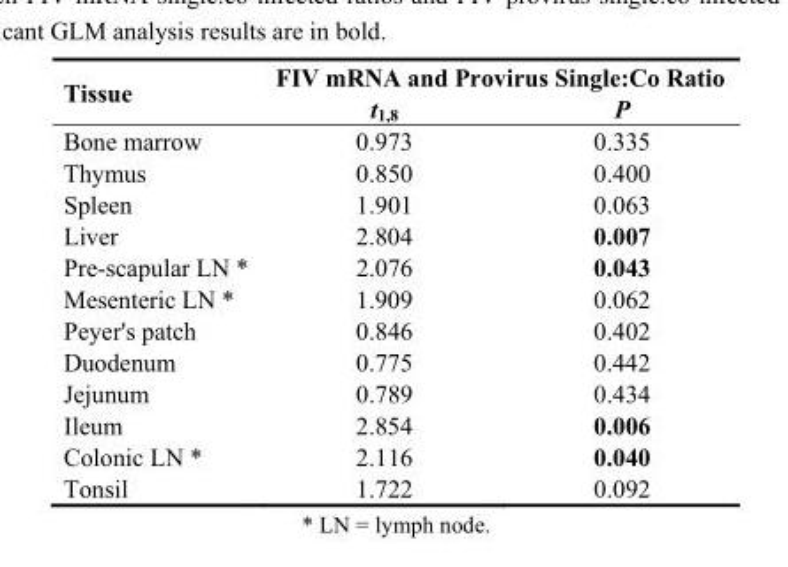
<table><thead><tr><td rowspan="2">Tissue</td><td colspan="2">FIV mRNA and Provirus Single:Co Ratio</td></tr><tr><td>t<sub>1,8</sub></td><td>P</td></tr></thead><tbody><tr><td>Bone marrow</td><td>0.973</td><td>0.335</td></tr><tr><td>Thymus</td><td>0.850</td><td>0.400</td></tr><tr><td>Spleen</td><td>1.901</td><td>0.063</td></tr><tr><td>Liver</td><td>2.804</td><td>0.007</td></tr><tr><td>Pre-scapular LN *</td><td>2.076</td><td>0.043</td></tr><tr><td>Mesenteric LN *</td><td>1.909</td><td>0.062</td></tr><tr><td>Peyer&#x27;s patch</td><td>0.846</td><td>0.402</td></tr><tr><td>Duodenum</td><td>0.775</td><td>0.442</td></tr><tr><td>Jejunum</td><td>0.789</td><td>0.434</td></tr><tr><td>Ileum</td><td>2.854</td><td>0.006</td></tr><tr><td>Colonic LN *</td><td>2.116</td><td>0.040</td></tr><tr><td>Tonsil</td><td>1.722</td><td>0.092</td></tr></tbody></table>